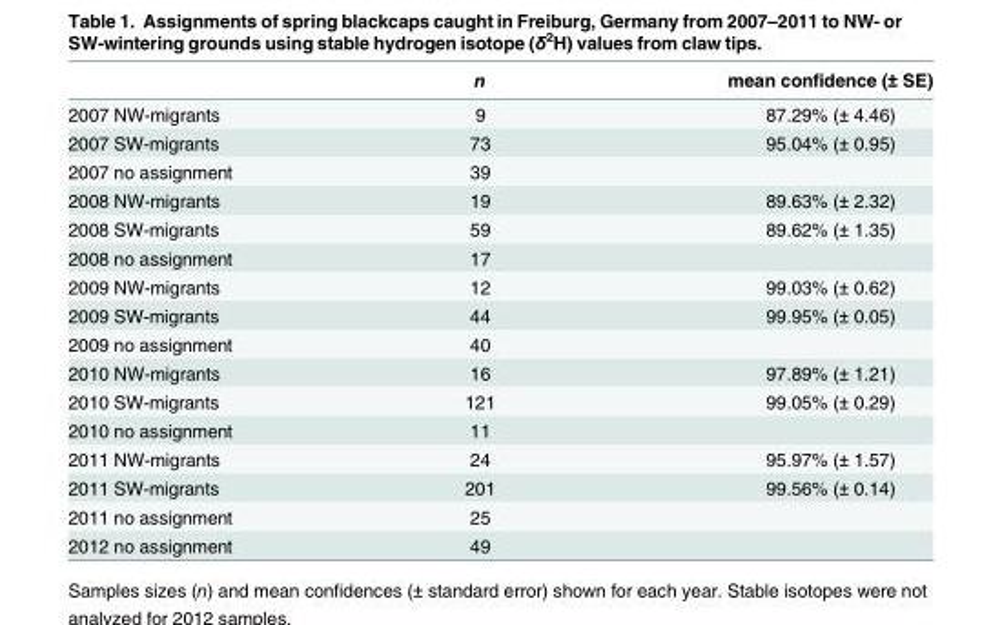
<table><thead><tr><td></td><td>n</td><td>mean confidence (± SE)</td></tr></thead><tbody><tr><td>2007 NW-migrants</td><td>9</td><td>87.29% (± 4.46)</td></tr><tr><td>2007 SW-migrants</td><td>73</td><td>95.04% (± 0.95)</td></tr><tr><td>2007 no assignment</td><td>39</td><td></td></tr><tr><td>2008 NW-migrants</td><td>19</td><td>89.63% (± 2.32)</td></tr><tr><td>2008 SW-migrants</td><td>59</td><td>89.62% (± 1.35)</td></tr><tr><td>2008 no assignment</td><td>17</td><td></td></tr><tr><td>2009 NW-migrants</td><td>12</td><td>99.03% (± 0.62)</td></tr><tr><td>2009 SW-migrants</td><td>44</td><td>99.95% (± 0.05)</td></tr><tr><td>2009 no assignment</td><td>40</td><td></td></tr><tr><td>2010 NW-migrants</td><td>16</td><td>97.89% (± 1.21)</td></tr><tr><td>2010 SW-migrants</td><td>121</td><td>99.05% (± 0.29)</td></tr><tr><td>2010 no assignment</td><td>11</td><td></td></tr><tr><td>2011 NW-migrants</td><td>24</td><td>95.97% (± 1.57)</td></tr><tr><td>2011 SW-migrants</td><td>201</td><td>99.56% (± 0.14)</td></tr><tr><td>2011 no assignment</td><td>25</td><td></td></tr><tr><td>2012 no assignment</td><td>49</td><td></td></tr></tbody></table>